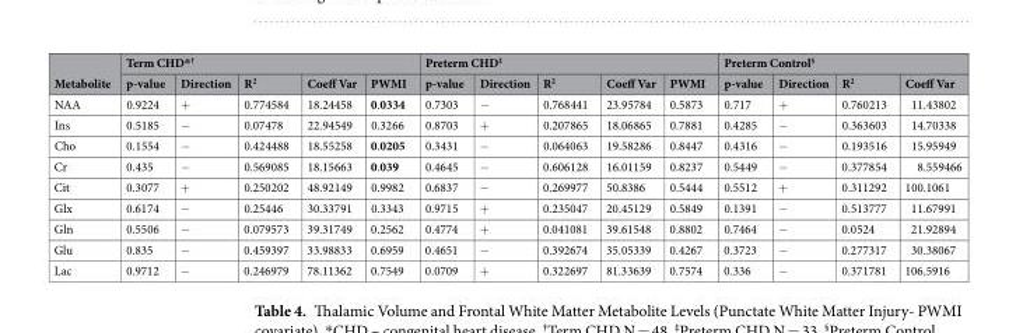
<table><thead><tr><td rowspan="2">Metabolite</td><td colspan="5">Term CHD*<sup>†</sup></td><td colspan="5">Preterm CHD<sup>‡</sup></td><td colspan="4">Preterm Control<sup>§</sup></td></tr><tr><td>p-value</td><td>Direction</td><td>R<sup>2</sup></td><td>Coeff Var</td><td>PWMI</td><td>p-value</td><td>Direction</td><td>R<sup>2</sup></td><td>Coeff Var</td><td>PWMI</td><td>p-value</td><td>Direction</td><td>R<sup>2</sup></td><td>Coeff Var</td></tr></thead><tbody><tr><td>NAA</td><td>0.9224</td><td>+</td><td>0.774584</td><td>18.24458</td><td>0.0334</td><td>0.7303</td><td>−</td><td>0.768441</td><td>23.95784</td><td>0.5873</td><td>0.717</td><td>+</td><td>0.760213</td><td>11.43802</td></tr><tr><td>Ins</td><td>0.5185</td><td>−</td><td>0.07478</td><td>22.94549</td><td>0.3266</td><td>0.8703</td><td>+</td><td>0.207865</td><td>18.06865</td><td>0.7881</td><td>0.4285</td><td>−</td><td>0.363603</td><td>14.70338</td></tr><tr><td>Cho</td><td>0.1554</td><td>−</td><td>0.424488</td><td>18.55258</td><td>0.0205</td><td>0.3431</td><td>−</td><td>0.064063</td><td>19.58286</td><td>0.8447</td><td>0.4316</td><td>−</td><td>0.193516</td><td>15.95949</td></tr><tr><td>Cr</td><td>0.435</td><td>−</td><td>0.569085</td><td>18.15663</td><td>0.039</td><td>0.4645</td><td>−</td><td>0.606128</td><td>16.01159</td><td>0.8237</td><td>0.5449</td><td>−</td><td>0.377854</td><td>8.559466</td></tr><tr><td>Cit</td><td>0.3077</td><td>+</td><td>0.250202</td><td>48.92149</td><td>0.9982</td><td>0.6837</td><td>−</td><td>0.269977</td><td>50.8386</td><td>0.5444</td><td>0.5512</td><td>+</td><td>0.311292</td><td>100.1061</td></tr><tr><td>Glx</td><td>0.6174</td><td>−</td><td>0.25446</td><td>30.33791</td><td>0.3343</td><td>0.9715</td><td>+</td><td>0.235047</td><td>20.45129</td><td>0.5849</td><td>0.1391</td><td>−</td><td>0.513777</td><td>11.67991</td></tr><tr><td>Gln</td><td>0.5506</td><td>−</td><td>0.079573</td><td>39.31749</td><td>0.2562</td><td>0.4774</td><td>+</td><td>0.041081</td><td>39.61548</td><td>0.8802</td><td>0.7464</td><td>−</td><td>0.0524</td><td>21.92894</td></tr><tr><td>Glu</td><td>0.835</td><td>−</td><td>0.459397</td><td>33.98833</td><td>0.6959</td><td>0.4651</td><td>−</td><td>0.392674</td><td>35.05339</td><td>0.4267</td><td>0.3723</td><td>−</td><td>0.277317</td><td>30.38067</td></tr><tr><td>Lac</td><td>0.9712</td><td>−</td><td>0.246979</td><td>78.11362</td><td>0.7549</td><td>0.0709</td><td>+</td><td>0.322697</td><td>81.33639</td><td>0.7574</td><td>0.336</td><td>−</td><td>0.371781</td><td>106.5916</td></tr></tbody></table>